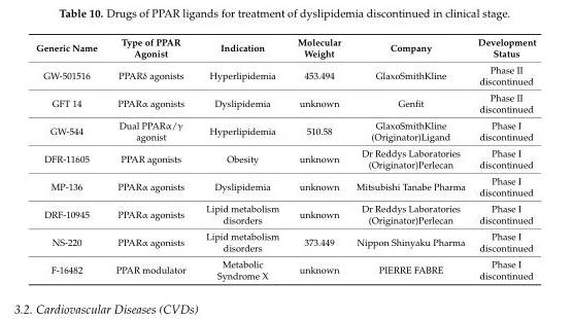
<table><thead><tr><td>Generic Name</td><td>Type of PPAR Agonist</td><td>Indication</td><td>Molecular Weight</td><td>Company</td><td>Development Status</td></tr></thead><tbody><tr><td>GW-501516</td><td>PPARδ agonists</td><td>Hyperlipidemia</td><td>453.494</td><td>GlaxoSmithKline</td><td>Phase II discontinued</td></tr><tr><td>GFT 14</td><td>PPARα agonists</td><td>Dyslipidemia</td><td>unknown</td><td>Genfit</td><td>Phase II discontinued</td></tr><tr><td>GW-544</td><td>Dual PPARα/γ agonist</td><td>Hyperlipidemia</td><td>510.58</td><td>GlaxoSmithKline (Originator)Ligand</td><td>Phase I discontinued</td></tr><tr><td>DFR-11605</td><td>PPAR agonists</td><td>Obesity</td><td>unknown</td><td>Dr Reddys Laboratories (Originator)Perlecan</td><td>Phase I discontinued</td></tr><tr><td>MP-136</td><td>PPARα agonists</td><td>Dyslipidemia</td><td>unknown</td><td>Mitsubishi Tanabe Pharma</td><td>Phase I discontinued</td></tr><tr><td>DRF-10945</td><td>PPARα agonists</td><td>Lipid metabolism disorders</td><td>unknown</td><td>Dr Reddys Laboratories (Originator)Perlecan</td><td>Phase I discontinued</td></tr><tr><td>NS-220</td><td>PPARα agonists</td><td>Lipid metabolism disorders</td><td>373.449</td><td>Nippon Shinyaku Pharma</td><td>Phase I discontinued</td></tr><tr><td>F-16482</td><td>PPAR modulator</td><td>Metabolic Syndrome X</td><td>unknown</td><td>PIERRE FABRE</td><td>Phase I discontinued</td></tr></tbody></table>